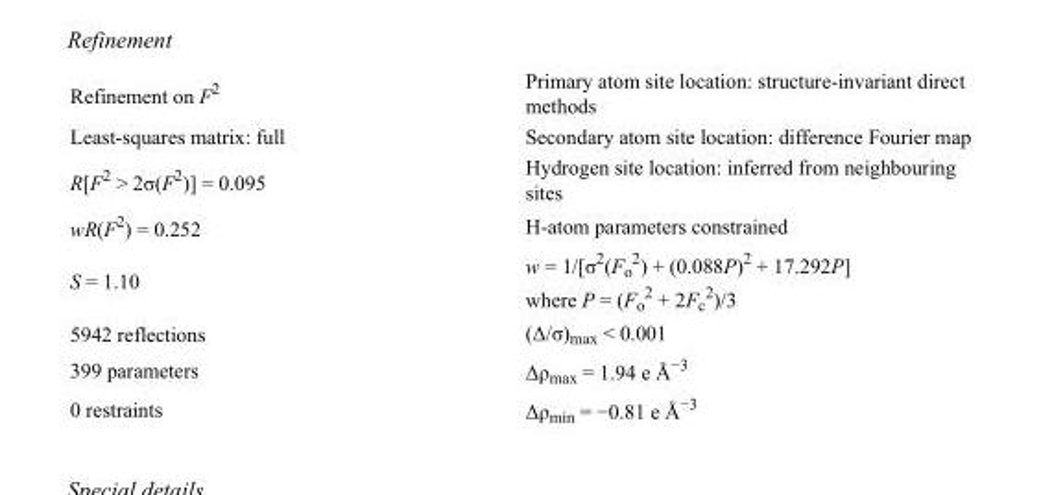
<table><tbody><tr><td>Refinement on F<sup>2</sup></td><td>Primary atom site location: structure-invariant direct methods</td></tr><tr><td>Least-squares matrix: full</td><td>Secondary atom site location: difference Fourier map</td></tr><tr><td>R[F<sup>2</sup> &gt; 2σ(F<sup>2</sup>)] = 0.095</td><td>Hydrogen site location: inferred from neighbouring sites</td></tr><tr><td>wR(F<sup>2</sup>) = 0.252</td><td>H-atom parameters constrained</td></tr><tr><td>S = 1.10</td><td>w = 1/[σ<sup>2</sup>(F<sub>o</sub> <sup>2</sup>) + (0.088P)<sup>2</sup> + 17.292P] where P = (F<sub>o</sub> <sup>2</sup> + 2F<sub>c</sub> <sup>2</sup>)/3</td></tr><tr><td>5942 reflections</td><td>(Δ/σ)<sub>max</sub> &lt; 0.001</td></tr><tr><td>399 parameters</td><td>Δρ<sub>max</sub> = 1.94 e Å<sup>−3</sup></td></tr><tr><td>0 restraints</td><td>Δρ<sub>min</sub> = −0.81 e Å<sup>−3</sup></td></tr></tbody></table>